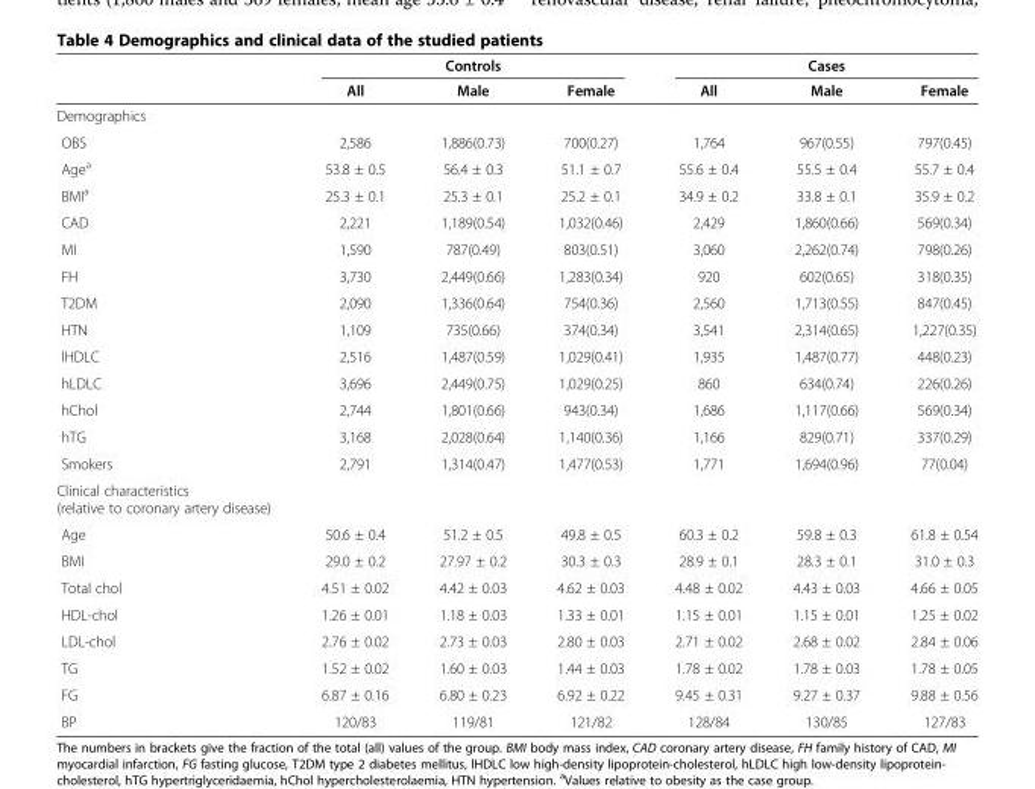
<table><thead><tr><td rowspan="2"></td><td colspan="3">Controls</td><td colspan="3">Cases</td></tr><tr><td>All</td><td>Male</td><td>Female</td><td>All</td><td>Male</td><td>Female</td></tr></thead><tbody><tr><td colspan="7">Demographics</td></tr><tr><td>OBS</td><td>2,586</td><td>1,886(0.73)</td><td>700(0.27)</td><td>1,764</td><td>967(0.55)</td><td>797(0.45)</td></tr><tr><td>Age<sup>a</sup></td><td>53.8 ± 0.5</td><td>56.4 ± 0.3</td><td>51.1 ± 0.7</td><td>55.6 ± 0.4</td><td>55.5 ± 0.4</td><td>55.7 ± 0.4</td></tr><tr><td>BMI<sup>a</sup></td><td>25.3 ± 0.1</td><td>25.3 ± 0.1</td><td>25.2 ± 0.1</td><td>34.9 ± 0.2</td><td>33.8 ± 0.1</td><td>35.9 ± 0.2</td></tr><tr><td>CAD</td><td>2,221</td><td>1,189(0.54)</td><td>1,032(0.46)</td><td>2,429</td><td>1,860(0.66)</td><td>569(0.34)</td></tr><tr><td>MI</td><td>1,590</td><td>787(0.49)</td><td>803(0.51)</td><td>3,060</td><td>2,262(0.74)</td><td>798(0.26)</td></tr><tr><td>FH</td><td>3,730</td><td>2,449(0.66)</td><td>1,283(0.34)</td><td>920</td><td>602(0.65)</td><td>318(0.35)</td></tr><tr><td>T2DM</td><td>2,090</td><td>1,336(0.64)</td><td>754(0.36)</td><td>2,560</td><td>1,713(0.55)</td><td>847(0.45)</td></tr><tr><td>HTN</td><td>1,109</td><td>735(0.66)</td><td>374(0.34)</td><td>3,541</td><td>2,314(0.65)</td><td>1,227(0.35)</td></tr><tr><td>lHDLC</td><td>2,516</td><td>1,487(0.59)</td><td>1,029(0.41)</td><td>1,935</td><td>1,487(0.77)</td><td>448(0.23)</td></tr><tr><td>hLDLC</td><td>3,696</td><td>2,449(0.75)</td><td>1,029(0.25)</td><td>860</td><td>634(0.74)</td><td>226(0.26)</td></tr><tr><td>hChol</td><td>2,744</td><td>1,801(0.66)</td><td>943(0.34)</td><td>1,686</td><td>1,117(0.66)</td><td>569(0.34)</td></tr><tr><td>hTG</td><td>3,168</td><td>2,028(0.64)</td><td>1,140(0.36)</td><td>1,166</td><td>829(0.71)</td><td>337(0.29)</td></tr><tr><td>Smokers</td><td>2,791</td><td>1,314(0.47)</td><td>1,477(0.53)</td><td>1,771</td><td>1,694(0.96)</td><td>77(0.04)</td></tr><tr><td colspan="7">Clinical characteristics (relative to coronary artery disease)</td></tr><tr><td>Age</td><td>50.6 ± 0.4</td><td>51.2 ± 0.5</td><td>49.8 ± 0.5</td><td>60.3 ± 0.2</td><td>59.8 ± 0.3</td><td>61.8 ± 0.54</td></tr><tr><td>BMI</td><td>29.0 ± 0.2</td><td>27.97 ± 0.2</td><td>30.3 ± 0.3</td><td>28.9 ± 0.1</td><td>28.3 ± 0.1</td><td>31.0 ± 0.3</td></tr><tr><td>Total chol</td><td>4.51 ± 0.02</td><td>4.42 ± 0.03</td><td>4.62 ± 0.03</td><td>4.48 ± 0.02</td><td>4.43 ± 0.03</td><td>4.66 ± 0.05</td></tr><tr><td>HDL-chol</td><td>1.26 ± 0.01</td><td>1.18 ± 0.03</td><td>1.33 ± 0.01</td><td>1.15 ± 0.01</td><td>1.15 ± 0.01</td><td>1.25 ± 0.02</td></tr><tr><td>LDL-chol</td><td>2.76 ± 0.02</td><td>2.73 ± 0.03</td><td>2.80 ± 0.03</td><td>2.71 ± 0.02</td><td>2.68 ± 0.02</td><td>2.84 ± 0.06</td></tr><tr><td>TG</td><td>1.52 ± 0.02</td><td>1.60 ± 0.03</td><td>1.44 ± 0.03</td><td>1.78 ± 0.02</td><td>1.78 ± 0.03</td><td>1.78 ± 0.05</td></tr><tr><td>FG</td><td>6.87 ± 0.16</td><td>6.80 ± 0.23</td><td>6.92 ± 0.22</td><td>9.45 ± 0.31</td><td>9.27 ± 0.37</td><td>9.88 ± 0.56</td></tr><tr><td>BP</td><td>120/83</td><td>119/81</td><td>121/82</td><td>128/84</td><td>130/85</td><td>127/83</td></tr></tbody></table>